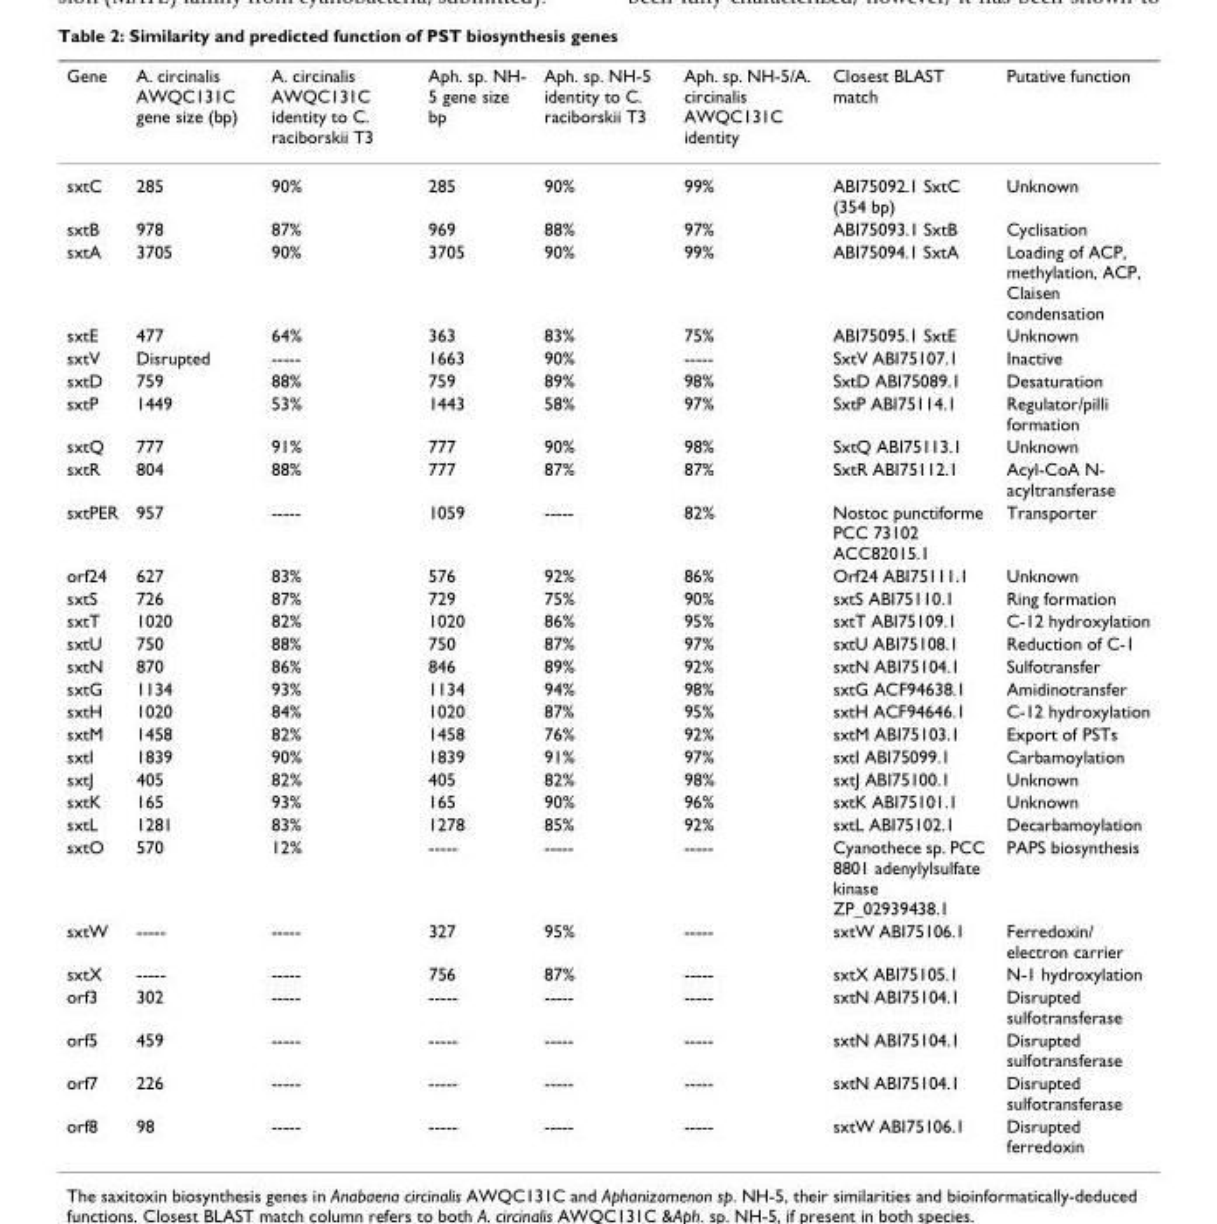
<table><thead><tr><td>Gene</td><td>A. circinalis AWQC131C gene size (bp)</td><td>A. circinalis AWQC131C identity to C. raciborskii T3</td><td>Aph. sp. NH- 5 gene size bp</td><td>Aph. sp. NH-5 identity to C. raciborskii T3</td><td>Aph. sp. NH-5/A. circinalis AWQC131C identity</td><td>Closest BLAST match</td><td>Putative function</td></tr></thead><tbody><tr><td>sxtC</td><td>285</td><td>90%</td><td>285</td><td>90%</td><td>99%</td><td>ABI75092.1 SxtC (354 bp)</td><td>Unknown</td></tr><tr><td>sxtB</td><td>978</td><td>87%</td><td>969</td><td>88%</td><td>97%</td><td>ABI75093.1 SxtB</td><td>Cyclisation</td></tr><tr><td>sxtA</td><td>3705</td><td>90%</td><td>3705</td><td>90%</td><td>99%</td><td>ABI75094.1 SxtA</td><td>Loading of ACP, methylation, ACP, Claisen condensation</td></tr><tr><td>sxtE</td><td>477</td><td>64%</td><td>363</td><td>83%</td><td>75%</td><td>ABI75095.1 SxtE</td><td>Unknown</td></tr><tr><td>sxtV</td><td>Disrupted</td><td>-----</td><td>1663</td><td>90%</td><td>-----</td><td>SxtV ABI75107.1</td><td>Inactive</td></tr><tr><td>sxtD</td><td>759</td><td>88%</td><td>759</td><td>89%</td><td>98%</td><td>SxtD ABI75089.1</td><td>Desaturation</td></tr><tr><td>sxtP</td><td>1449</td><td>53%</td><td>1443</td><td>58%</td><td>97%</td><td>SxtP ABI75114.1</td><td>Regulator/pilli formation</td></tr><tr><td>sxtQ</td><td>777</td><td>91%</td><td>777</td><td>90%</td><td>98%</td><td>SxtQ ABI75113.1</td><td>Unknown</td></tr><tr><td>sxtR</td><td>804</td><td>88%</td><td>777</td><td>87%</td><td>87%</td><td>SxtR ABI75112.1</td><td>Acyl-CoA N- acyltransferase</td></tr><tr><td>sxtPER</td><td>957</td><td>-----</td><td>1059</td><td>-----</td><td>82%</td><td>Nostoc punctiforme PCC 73102 ACC82015.1</td><td>Transporter</td></tr><tr><td>orf24</td><td>627</td><td>83%</td><td>576</td><td>92%</td><td>86%</td><td>Orf24 ABI75111.1</td><td>Unknown</td></tr><tr><td>sxtS</td><td>726</td><td>87%</td><td>729</td><td>75%</td><td>90%</td><td>sxtS ABI75110.1</td><td>Ring formation</td></tr><tr><td>sxtT</td><td>1020</td><td>82%</td><td>1020</td><td>86%</td><td>95%</td><td>sxtT ABI75109.1</td><td>C-12 hydroxylation</td></tr><tr><td>sxtU</td><td>750</td><td>88%</td><td>750</td><td>87%</td><td>97%</td><td>sxtU ABI75108.1</td><td>Reduction of C-1</td></tr><tr><td>sxtN</td><td>870</td><td>86%</td><td>846</td><td>89%</td><td>92%</td><td>sxtN ABI75104.1</td><td>Sulfotransfer</td></tr><tr><td>sxtG</td><td>1134</td><td>93%</td><td>1134</td><td>94%</td><td>98%</td><td>sxtG ACF94638.1</td><td>Amidinotransfer</td></tr><tr><td>sxtH</td><td>1020</td><td>84%</td><td>1020</td><td>87%</td><td>95%</td><td>sxtH ACF94646.1</td><td>C-12 hydroxylation</td></tr><tr><td>sxtM</td><td>1458</td><td>82%</td><td>1458</td><td>76%</td><td>92%</td><td>sxtM ABI75103.1</td><td>Export of PSTs</td></tr><tr><td>sxtI</td><td>1839</td><td>90%</td><td>1839</td><td>91%</td><td>97%</td><td>sxtI ABI75099.1</td><td>Carbamoylation</td></tr><tr><td>sxtJ</td><td>405</td><td>82%</td><td>405</td><td>82%</td><td>98%</td><td>sxtJ ABI75100.1</td><td>Unknown</td></tr><tr><td>sxtK</td><td>165</td><td>93%</td><td>165</td><td>90%</td><td>96%</td><td>sxtK ABI75101.1</td><td>Unknown</td></tr><tr><td>sxtL</td><td>1281</td><td>83%</td><td>1278</td><td>85%</td><td>92%</td><td>sxtL ABI75102.1</td><td>Decarbamoylation</td></tr><tr><td>sxtO</td><td>570</td><td>12%</td><td>-----</td><td>-----</td><td>-----</td><td>Cyanothece sp. PCC 8801 adenylylsulfate kinase ZP_02939438.1</td><td>PAPS biosynthesis</td></tr><tr><td>sxtW</td><td>-----</td><td>-----</td><td>327</td><td>95%</td><td>-----</td><td>sxtW ABI75106.1</td><td>Ferredoxin/ electron carrier</td></tr><tr><td>sxtX</td><td>-----</td><td>-----</td><td>756</td><td>87%</td><td>-----</td><td>sxtX ABI75105.1</td><td>N-1 hydroxylation</td></tr><tr><td>orf3</td><td>302</td><td>-----</td><td>-----</td><td>-----</td><td>-----</td><td>sxtN ABI75104.1</td><td>Disrupted sulfotransferase</td></tr><tr><td>orf5</td><td>459</td><td>-----</td><td>-----</td><td>-----</td><td>-----</td><td>sxtN ABI75104.1</td><td>Disrupted sulfotransferase</td></tr><tr><td>orf7</td><td>226</td><td>-----</td><td>-----</td><td>-----</td><td>-----</td><td>sxtN ABI75104.1</td><td>Disrupted sulfotransferase</td></tr><tr><td>orf8</td><td>98</td><td>-----</td><td>-----</td><td>-----</td><td>-----</td><td>sxtW ABI75106.1</td><td>Disrupted ferredoxin</td></tr></tbody></table>